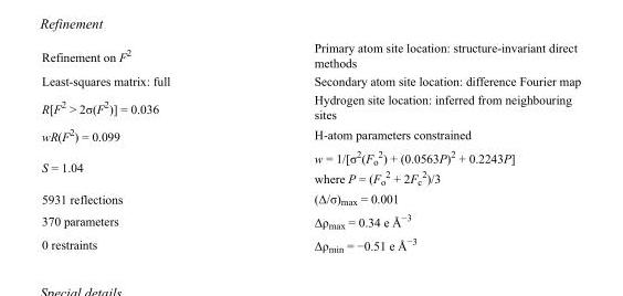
<table><tbody><tr><td>Refinement on F<sup>2</sup></td><td>Primary atom site location: structure-invariant direct methods</td></tr><tr><td>Least-squares matrix: full</td><td>Secondary atom site location: difference Fourier map</td></tr><tr><td>R[F<sup>2</sup> &gt; 2σ(F<sup>2</sup>)] = 0.036</td><td>Hydrogen site location: inferred from neighbouring sites</td></tr><tr><td>wR(F<sup>2</sup>) = 0.099</td><td>H-atom parameters constrained</td></tr><tr><td>S = 1.04</td><td>w = 1/[σ<sup>2</sup>(F<sub>o</sub> <sup>2</sup>) + (0.0563P)<sup>2</sup> + 0.2243P] where P = (F<sub>o</sub> <sup>2</sup> + 2F<sub>c</sub> <sup>2</sup>)/3</td></tr><tr><td>5931 reflections</td><td>(Δ/σ)<sub>max</sub> = 0.001</td></tr><tr><td>370 parameters</td><td>Δρ<sub>max</sub> = 0.34 e Å<sup>−3</sup></td></tr><tr><td>0 restraints</td><td>Δρ<sub>min</sub> = −0.51 e Å<sup>−3</sup></td></tr></tbody></table>